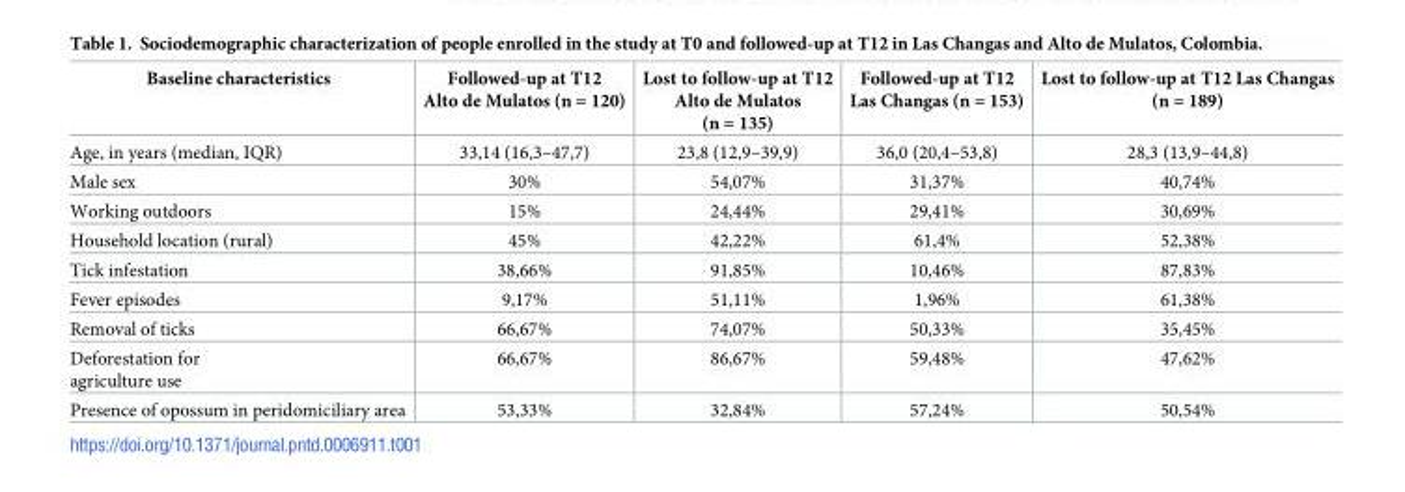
<table><thead><tr><td>Baseline characteristics</td><td>Followed-up at T12 Alto de Mulatos (n = 120)</td><td>Lost to follow-up at T12 Alto de Mulatos (n = 135)</td><td>Followed-up at T12 Las Changas (n = 153)</td><td>Lost to follow-up at T12 Las Changas (n = 189)</td></tr></thead><tbody><tr><td>Age, in years (median, IQR)</td><td>33,14 (16,3–47,7)</td><td>23,8 (12,9–39,9)</td><td>36,0 (20,4–53,8)</td><td>28,3 (13,9–44,8)</td></tr><tr><td>Male sex</td><td>30%</td><td>54,07%</td><td>31,37%</td><td>40,74%</td></tr><tr><td>Working outdoors</td><td>15%</td><td>24,44%</td><td>29,41%</td><td>30,69%</td></tr><tr><td>Household location (rural)</td><td>45%</td><td>42,22%</td><td>61,4%</td><td>52,38%</td></tr><tr><td>Tick infestation</td><td>38,66%</td><td>91,85%</td><td>10,46%</td><td>87,83%</td></tr><tr><td>Fever episodes</td><td>9,17%</td><td>51,11%</td><td>1,96%</td><td>61,38%</td></tr><tr><td>Removal of ticks</td><td>66,67%</td><td>74,07%</td><td>50,33%</td><td>35,45%</td></tr><tr><td>Deforestation for agriculture use</td><td>66,67%</td><td>86,67%</td><td>59,48%</td><td>47,62%</td></tr><tr><td>Presence of opossum in peridomiciliary area</td><td>53,33%</td><td>32,84%</td><td>57,24%</td><td>50,54%</td></tr></tbody></table>